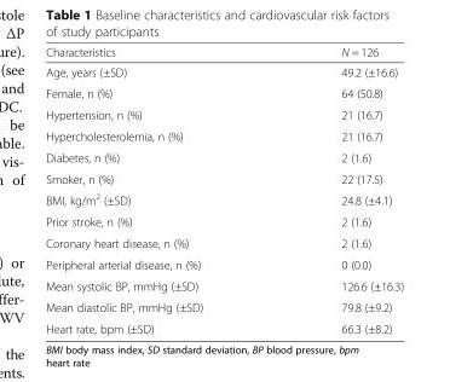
<table><thead><tr><td>Characteristics</td><td>N = 126</td></tr></thead><tbody><tr><td>Age, years (±SD)</td><td>49.2 (±16.6)</td></tr><tr><td>Female, n (%)</td><td>64 (50.8)</td></tr><tr><td>Hypertension, n (%)</td><td>21 (16.7)</td></tr><tr><td>Hypercholesterolemia, n (%)</td><td>21 (16.7)</td></tr><tr><td>Diabetes, n (%)</td><td>2 (1.6)</td></tr><tr><td>Smoker, n (%)</td><td>22 (17.5)</td></tr><tr><td>BMI, kg/m<sup>2</sup> (±SD)</td><td>24.8 (±4.1)</td></tr><tr><td>Prior stroke, n (%)</td><td>2 (1.6)</td></tr><tr><td>Coronary heart disease, n (%)</td><td>2 (1.6)</td></tr><tr><td>Peripheral arterial disease, n (%)</td><td>0 (0.0)</td></tr><tr><td>Mean systolic BP, mmHg (±SD)</td><td>126.6 (±16.3)</td></tr><tr><td>Mean diastolic BP, mmHg (±SD)</td><td>79.8 (±9.2)</td></tr><tr><td>Heart rate, bpm (±SD)</td><td>66.3 (±8.2)</td></tr></tbody></table>